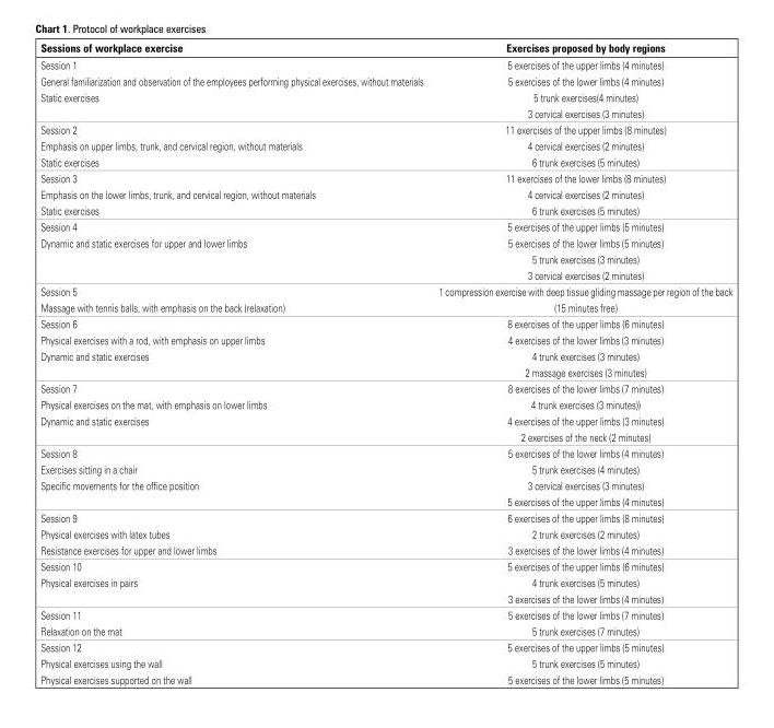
<table><thead><tr><td>Sessions of workplace exercise</td><td>Exercises proposed by body regions</td></tr></thead><tbody><tr><td>Session 1</td><td>5 exercises of the upper limbs (4 minutes)</td></tr><tr><td>General familiarization and observation of the employees performing physical exercises, without materials</td><td>5 exercises of the lower limbs (4 minutes)</td></tr><tr><td rowspan="2">Static exercises</td><td>5 trunk exercises(4 minutes)</td></tr><tr><td>3 cervical exercises (3 minutes)</td></tr><tr><td>Session 2</td><td>11 exercises of the upper limbs (8 minutes)</td></tr><tr><td>Emphasis on upper limbs, trunk, and cervical region, without materials</td><td>4 cervical exercises (2 minutes)</td></tr><tr><td>Static exercises</td><td>6 trunk exercises (5 minutes)</td></tr><tr><td>Session 3</td><td>11 exercises of the lower limbs (8 minutes)</td></tr><tr><td>Emphasis on the lower limbs, trunk, and cervical region, without materials</td><td>4 cervical exercises (2 minutes)</td></tr><tr><td>Static exercises</td><td>6 trunk exercises (5 minutes)</td></tr><tr><td>Session 4</td><td>5 exercises of the upper limbs (5 minutes)</td></tr><tr><td rowspan="3">Dynamic and static exercises for upper and lower limbs</td><td>5 exercises of the lower limbs (5 minutes)</td></tr><tr><td>5 trunk exercises (3 minutes)</td></tr><tr><td>3 cervical exercises (2 minutes)</td></tr><tr><td>Session 5</td><td>1 compression exercise with deep tissue gliding massage per region of the back</td></tr><tr><td>Massage with tennis balls, with emphasis on the back (relaxation)</td><td>(15 minutes free)</td></tr><tr><td>Session 6</td><td>8 exercises of the upper limbs (6 minutes)</td></tr><tr><td>Physical exercises with a rod, with emphasis on upper limbs</td><td>4 exercises of the lower limbs (3 minutes)</td></tr><tr><td rowspan="2">Dynamic and static exercises</td><td>4 trunk exercises (3 minutes)</td></tr><tr><td>2 massage exercises (3 minutes)</td></tr><tr><td>Session 7</td><td>8 exercises of the lower limbs (7 minutes)</td></tr><tr><td>Physical exercises on the mat, with emphasis on lower limbs</td><td>4 trunk exercises (3 minutes))</td></tr><tr><td rowspan="2">Dynamic and static exercises</td><td>4 exercises of the upper limbs (3 minutes)</td></tr><tr><td>2 exercises of the neck (2 minutes)</td></tr><tr><td>Session 8</td><td>5 exercises of the lower limbs (4 minutes)</td></tr><tr><td>Exercises sitting in a chair</td><td>5 trunk exercises (4 minutes)</td></tr><tr><td rowspan="2">Specific movements for the office position</td><td>3 cervical exercises (3 minutes)</td></tr><tr><td>5 exercises of the upper limbs (4 minutes)</td></tr><tr><td>Session 9</td><td>6 exercises of the upper limbs (8 minutes)</td></tr><tr><td>Physical exercises with latex tubes</td><td>2 trunk exercises (2 minutes)</td></tr><tr><td>Resistance exercises for upper and lower limbs</td><td>3 exercises of the lower limbs (4 minutes)</td></tr><tr><td>Session 10</td><td>5 exercises of the upper limbs (6 minutes)</td></tr><tr><td rowspan="2">Physical exercises in pairs</td><td>4 trunk exercises (5 minutes)</td></tr><tr><td>3 exercises of the lower limbs (4 minutes)</td></tr><tr><td>Session 11</td><td>5 exercises of the lower limbs (7 minutes)</td></tr><tr><td>Relaxation on the mat</td><td>5 trunk exercises (7 minutes)</td></tr><tr><td>Session 12</td><td>5 exercises of the upper limbs (5 minutes)</td></tr><tr><td>Physical exercises using the wall</td><td>5 trunk exercises (5 minutes)</td></tr><tr><td>Physical exercises supported on the wall</td><td>5 exercises of the lower limbs (5 minutes)</td></tr></tbody></table>